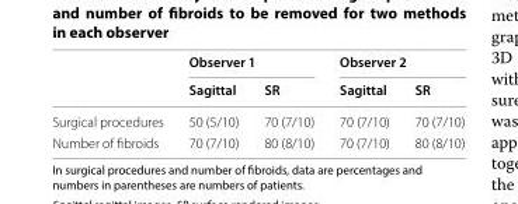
<table><thead><tr><td rowspan="2"></td><td colspan="2">Observer 1</td><td colspan="2">Observer 2</td></tr><tr><td>Sagittal</td><td>SR</td><td>Sagittal</td><td>SR</td></tr></thead><tbody><tr><td>Surgical procedures</td><td>50 (5/10)</td><td>70 (7/10)</td><td>70 (7/10)</td><td>70 (7/10)</td></tr><tr><td>Number of fibroids</td><td>70 (7/10)</td><td>80 (8/10)</td><td>70 (7/10)</td><td>80 (8/10)</td></tr></tbody></table>